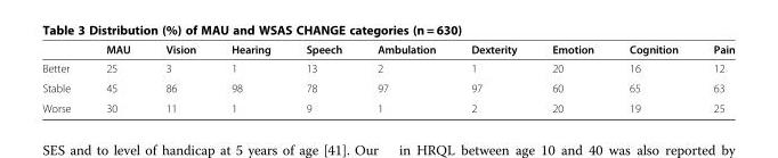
<table><thead><tr><td></td><td>MAU</td><td>Vision</td><td>Hearing</td><td>Speech</td><td>Ambulation</td><td>Dexterity</td><td>Emotion</td><td>Cognition</td><td>Pain</td></tr></thead><tbody><tr><td>Better</td><td>25</td><td>3</td><td>1</td><td>13</td><td>2</td><td>1</td><td>20</td><td>16</td><td>12</td></tr><tr><td>Stable</td><td>45</td><td>86</td><td>98</td><td>78</td><td>97</td><td>97</td><td>60</td><td>65</td><td>63</td></tr><tr><td>Worse</td><td>30</td><td>11</td><td>1</td><td>9</td><td>1</td><td>2</td><td>20</td><td>19</td><td>25</td></tr></tbody></table>